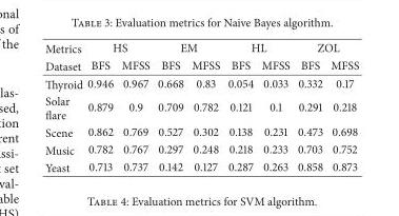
<table><thead><tr><td rowspan="2">Metrics Dataset</td><td colspan="2">HS</td><td colspan="2">EM</td><td colspan="2">HL</td><td colspan="2">ZOL</td></tr><tr><td>BFS</td><td>MFSS</td><td>BFS</td><td>MFSS</td><td>BFS</td><td>MFSS</td><td>BFS</td><td>MFSS</td></tr></thead><tbody><tr><td>Thyroid</td><td>0.946</td><td>0.967</td><td>0.668</td><td>0.83</td><td>0.054</td><td>0.033</td><td>0.332</td><td>0.17</td></tr><tr><td>Solar flare</td><td>0.879</td><td>0.9</td><td>0.709</td><td>0.782</td><td>0.121</td><td>0.1</td><td>0.291</td><td>0.218</td></tr><tr><td>Scene</td><td>0.862</td><td>0.769</td><td>0.527</td><td>0.302</td><td>0.138</td><td>0.231</td><td>0.473</td><td>0.698</td></tr><tr><td>Music</td><td>0.782</td><td>0.767</td><td>0.297</td><td>0.248</td><td>0.218</td><td>0.233</td><td>0.703</td><td>0.752</td></tr><tr><td>Yeast</td><td>0.713</td><td>0.737</td><td>0.142</td><td>0.127</td><td>0.287</td><td>0.263</td><td>0.858</td><td>0.873</td></tr></tbody></table>